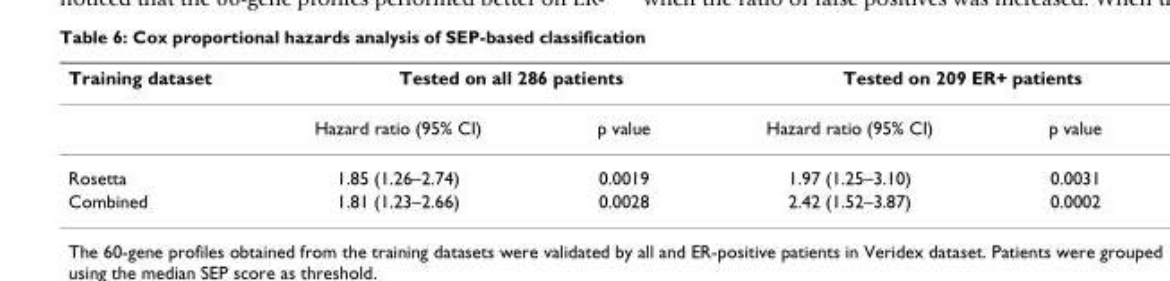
<table><thead><tr><td rowspan="2">Training dataset</td><td colspan="2">Tested on all 286 patients</td><td colspan="2">Tested on 209 ER+ patients</td></tr><tr><td>Hazard ratio (95% CI)</td><td>p value</td><td>Hazard ratio (95% CI)</td><td>p value</td></tr></thead><tbody><tr><td>Rosetta</td><td>1.85 (1.26–2.74)</td><td>0.0019</td><td>1.97 (1.25–3.10)</td><td>0.0031</td></tr><tr><td>Combined</td><td>1.81 (1.23–2.66)</td><td>0.0028</td><td>2.42 (1.52–3.87)</td><td>0.0002</td></tr></tbody></table>